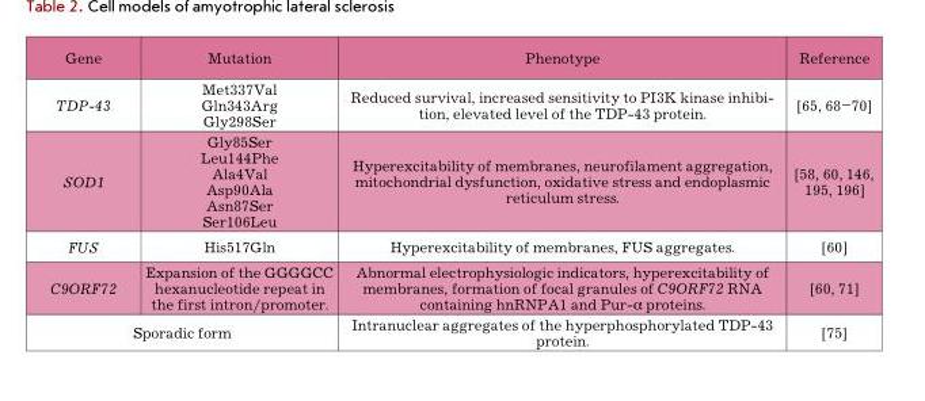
<table><thead><tr><td>Gene</td><td>Mutation</td><td>Phenotype</td><td>Reference</td></tr></thead><tbody><tr><td>TDP-43</td><td>Met337Val Gln343Arg Gly298Ser</td><td>Reduced survival, increased sensitivity to PI3K kinase inhibi- tion, elevated level of the TDP-43 protein.</td><td>[65, 68–70]</td></tr><tr><td>SOD1</td><td>Gly85Ser Leu144Phe Ala4Val Asp90Ala Asn87Ser Ser106Leu</td><td>Hyperexcitability of membranes, neurofilament aggregation, mitochondrial dysfunction, oxidative stress and endoplasmic reticulum stress.</td><td>[58, 60, 146, 195, 196]</td></tr><tr><td>FUS</td><td>His517Gln</td><td>Hyperexcitability of membranes, FUS aggregates.</td><td>[60]</td></tr><tr><td>C9ORF72</td><td>Expansion of the GGGGCC hexanucleotide repeat in the first intron/promoter.</td><td>Abnormal electrophysiologic indicators, hyperexcitability of membranes, formation of focal granules of C9ORF72 RNA containing hnRNPA1 and Pur-α proteins.</td><td>[60, 71]</td></tr><tr><td colspan="2">Sporadic form</td><td>Intranuclear aggregates of the hyperphosphorylated TDP-43 protein.</td><td>[75]</td></tr></tbody></table>